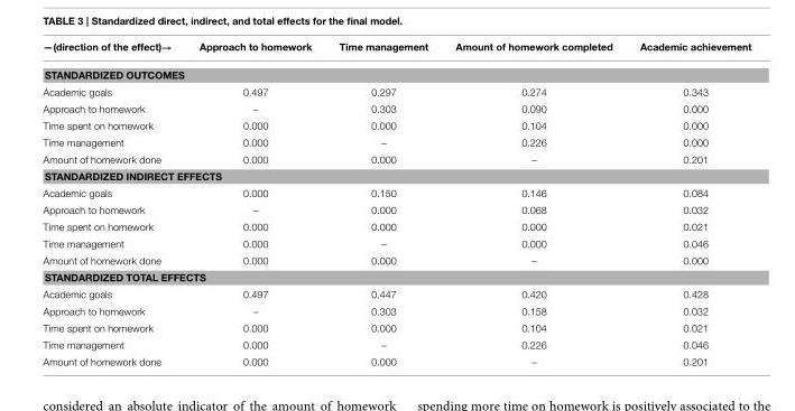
<table><thead><tr><td>—(direction of the effect)→</td><td>Approach to homework</td><td>Time management</td><td>Amount of homework completed</td><td>Academic achievement</td></tr></thead><tbody><tr><td colspan="5">STANDARDIZED OUTCOMES</td></tr><tr><td>Academic goals</td><td>0.497</td><td>0.297</td><td>0.274</td><td>0.343</td></tr><tr><td>Approach to homework</td><td>–</td><td>0.303</td><td>0.090</td><td>0.000</td></tr><tr><td>Time spent on homework</td><td>0.000</td><td>0.000</td><td>0.104</td><td>0.000</td></tr><tr><td>Time management</td><td>0.000</td><td>–</td><td>0.226</td><td>0.000</td></tr><tr><td>Amount of homework done</td><td>0.000</td><td>0.000</td><td>–</td><td>0.201</td></tr><tr><td colspan="5">STANDARDIZED INDIRECT EFFECTS</td></tr><tr><td>Academic goals</td><td>0.000</td><td>0.150</td><td>0.146</td><td>0.084</td></tr><tr><td>Approach to homework</td><td>–</td><td>0.000</td><td>0.068</td><td>0.032</td></tr><tr><td>Time spent on homework</td><td>0.000</td><td>0.000</td><td>0.000</td><td>0.021</td></tr><tr><td>Time management</td><td>0.000</td><td>–</td><td>0.000</td><td>0.046</td></tr><tr><td>Amount of homework done</td><td>0.000</td><td>0.000</td><td>–</td><td>0.000</td></tr><tr><td colspan="5">STANDARDIZED TOTAL EFFECTS</td></tr><tr><td>Academic goals</td><td>0.497</td><td>0.447</td><td>0.420</td><td>0.428</td></tr><tr><td>Approach to homework</td><td>–</td><td>0.303</td><td>0.158</td><td>0.032</td></tr><tr><td>Time spent on homework</td><td>0.000</td><td>0.000</td><td>0.104</td><td>0.021</td></tr><tr><td>Time management</td><td>0.000</td><td>–</td><td>0.226</td><td>0.046</td></tr><tr><td>Amount of homework done</td><td>0.000</td><td>0.000</td><td>–</td><td>0.201</td></tr></tbody></table>